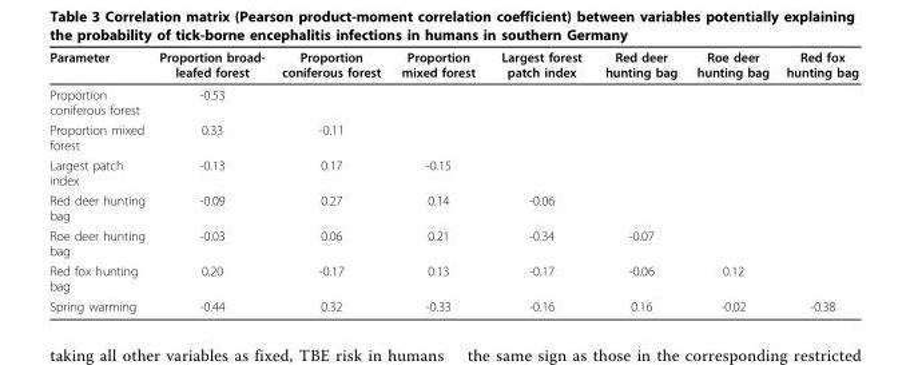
<table><thead><tr><td>Parameter</td><td>Proportion broad- leafed forest</td><td>Proportion coniferous forest</td><td>Proportion mixed forest</td><td>Largest forest patch index</td><td>Red deer hunting bag</td><td>Roe deer hunting bag</td><td>Red fox hunting bag</td></tr></thead><tbody><tr><td>Proportion coniferous forest</td><td>-0.53</td><td></td><td></td><td></td><td></td><td></td><td></td></tr><tr><td>Proportion mixed forest</td><td>0.33</td><td>-0.11</td><td></td><td></td><td></td><td></td><td></td></tr><tr><td>Largest patch index</td><td>-0.13</td><td>0.17</td><td>-0.15</td><td></td><td></td><td></td><td></td></tr><tr><td>Red deer hunting bag</td><td>-0.09</td><td>0.27</td><td>0.14</td><td>-0.06</td><td></td><td></td><td></td></tr><tr><td>Roe deer hunting bag</td><td>-0.03</td><td>0.06</td><td>0.21</td><td>-0.34</td><td>-0.07</td><td></td><td></td></tr><tr><td>Red fox hunting bag</td><td>0.20</td><td>-0.17</td><td>0.13</td><td>-0.17</td><td>-0.06</td><td>0.12</td><td></td></tr><tr><td>Spring warming</td><td>-0.44</td><td>0.32</td><td>-0.33</td><td>-0.16</td><td>0.16</td><td>-0.02</td><td>-0.38</td></tr></tbody></table>